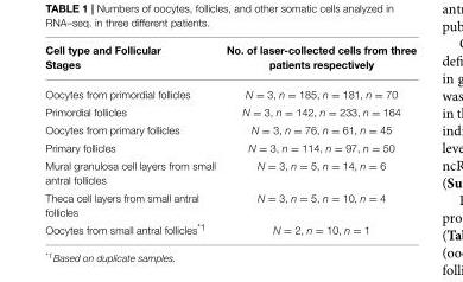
<table><thead><tr><td>Cell type and Follicular Stages</td><td>No. of laser-collected cells from three patients respectively</td></tr></thead><tbody><tr><td>Oocytes from primordial follicles</td><td>N = 3, n = 185, n = 181, n = 70</td></tr><tr><td>Primordial follicles</td><td>N = 3, n = 142, n = 233, n = 164</td></tr><tr><td>Oocytes from primary follicles</td><td>N = 3, n = 76, n = 61, n = 45</td></tr><tr><td>Primary follicles</td><td>N = 3, n = 114, n = 97, n = 50</td></tr><tr><td>Mural granulosa cell layers from small antral follicles</td><td>N = 3, n = 5, n = 14, n = 6</td></tr><tr><td>Theca cell layers from small antral follicles</td><td>N = 3, n = 5, n = 10, n = 4</td></tr><tr><td>Oocytes from small antral follicles<sup>*1</sup></td><td>N = 2, n = 10, n = 1</td></tr></tbody></table>